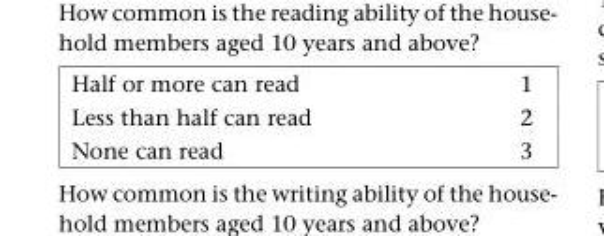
<table><tbody><tr><td>Half or more can read</td><td>1</td></tr><tr><td>Less than half can read</td><td>2</td></tr><tr><td>None can read</td><td>3</td></tr></tbody></table>